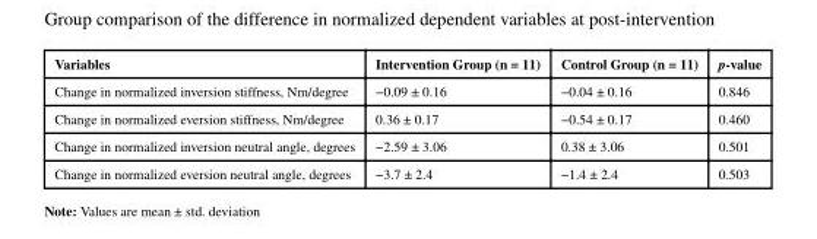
<table><thead><tr><td>Variables</td><td>Intervention Group (n = 11)</td><td>Control Group (n = 11)</td><td>p-value</td></tr></thead><tbody><tr><td>Change in normalized inversion stiffness, Nm/degree</td><td>−0.09 ± 0.16</td><td>−0.04 ± 0.16</td><td>0.846</td></tr><tr><td>Change in normalized eversion stiffness, Nm/degree</td><td>0.36 ± 0.17</td><td>−0.54 ± 0.17</td><td>0.460</td></tr><tr><td>Change in normalized inversion neutral angle, degrees</td><td>−2.59 ± 3.06</td><td>0.38 ± 3.06</td><td>0.501</td></tr><tr><td>Change in normalized eversion neutral angle, degrees</td><td>−3.7 ± 2.4</td><td>−1.4 ± 2.4</td><td>0.503</td></tr></tbody></table>